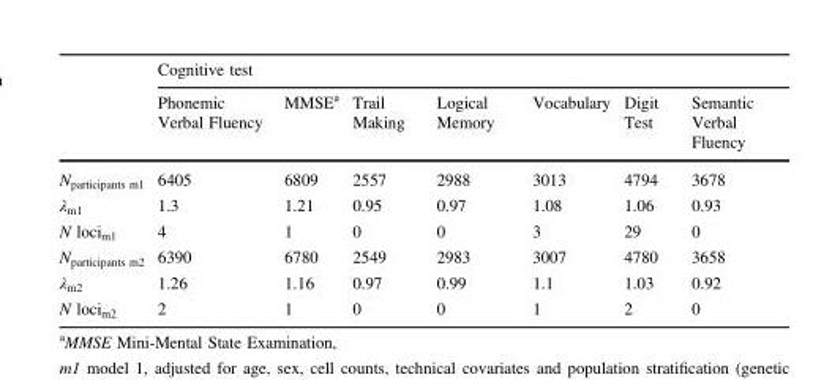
<table><thead><tr><td rowspan="2"></td><td colspan="7">Cognitive test</td></tr><tr><td>Phonemic Verbal Fluency</td><td>MMSE<sup>a</sup></td><td>Trail Making</td><td>Logical Memory</td><td>Vocabulary</td><td>Digit Test</td><td>Semantic Verbal Fluency</td></tr></thead><tbody><tr><td>N<sub>participants m1</sub></td><td>6405</td><td>6809</td><td>2557</td><td>2988</td><td>3013</td><td>4794</td><td>3678</td></tr><tr><td>λ<sub>m1</sub></td><td>1.3</td><td>1.21</td><td>0.95</td><td>0.97</td><td>1.08</td><td>1.06</td><td>0.93</td></tr><tr><td>N loci<sub>m1</sub></td><td>4</td><td>1</td><td>0</td><td>0</td><td>3</td><td>29</td><td>0</td></tr><tr><td>N<sub>participants m2</sub></td><td>6390</td><td>6780</td><td>2549</td><td>2983</td><td>3007</td><td>4780</td><td>3658</td></tr><tr><td>λ<sub>m2</sub></td><td>1.26</td><td>1.16</td><td>0.97</td><td>0.99</td><td>1.1</td><td>1.03</td><td>0.92</td></tr><tr><td>N loci<sub>m2</sub></td><td>2</td><td>1</td><td>0</td><td>0</td><td>1</td><td>2</td><td>0</td></tr></tbody></table>